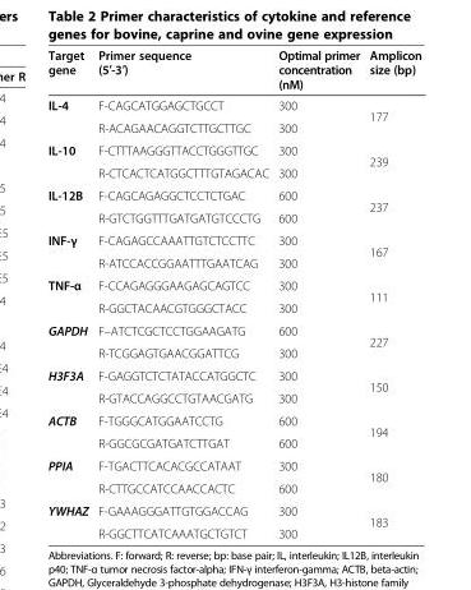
<table><thead><tr><td>Target gene</td><td>Primer sequence (5′-3′)</td><td>Optimal primer concentration (nM)</td><td>Amplicon size (bp)</td></tr></thead><tbody><tr><td rowspan="2">IL-4</td><td>F-CAGCATGGAGCTGCCT</td><td>300</td><td rowspan="2">177</td></tr><tr><td>R-ACAGAACAGGTCTTGCTTGC</td><td>300</td></tr><tr><td rowspan="2">IL-10</td><td>F-CTTTAAGGGTTACCTGGGTTGC</td><td>300</td><td rowspan="2">239</td></tr><tr><td>R-CTCACTCATGGCTTTGTAGACAC</td><td>300</td></tr><tr><td rowspan="2">IL-12B</td><td>F-CAGCAGAGGCTCCTCTGAC</td><td>600</td><td rowspan="2">237</td></tr><tr><td>R-GTCTGGTTTGATGATGTCCCTG</td><td>600</td></tr><tr><td rowspan="2">INF-γ</td><td>F-CAGAGCCAAATTGTCTCCTTC</td><td>300</td><td rowspan="2">167</td></tr><tr><td>R-ATCCACCGGAATTTGAATCAG</td><td>300</td></tr><tr><td rowspan="2">TNF-α</td><td>F-CCAGAGGGAAGAGCAGTCC</td><td>300</td><td rowspan="2">111</td></tr><tr><td>R-GGCTACAACGTGGGCTACC</td><td>300</td></tr><tr><td rowspan="2">GAPDH</td><td>F–ATCTCGCTCCTGGAAGATG</td><td>600</td><td rowspan="2">227</td></tr><tr><td>R-TCGGAGTGAACGGATTCG</td><td>300</td></tr><tr><td rowspan="2">H3F3A</td><td>F-GAGGTCTCTATACCATGGCTC</td><td>300</td><td rowspan="2">150</td></tr><tr><td>R-GTACCAGGCCTGTAACGATG</td><td>300</td></tr><tr><td rowspan="2">ACTB</td><td>F-TGGGCATGGAATCCTG</td><td>600</td><td rowspan="2">194</td></tr><tr><td>R-GGCGCGATGATCTTGAT</td><td>600</td></tr><tr><td rowspan="2">PPIA</td><td>F-TGACTTCACACGCCATAAT</td><td>300</td><td rowspan="2">180</td></tr><tr><td>R-CTTGCCATCCAACCACTC</td><td>600</td></tr><tr><td rowspan="2">YWHAZ</td><td>F-GAAAGGGATTGTGGACCAG</td><td>300</td><td rowspan="2">183</td></tr><tr><td>R-GGCTTCATCAAATGCTGTCT</td><td>300</td></tr></tbody></table>